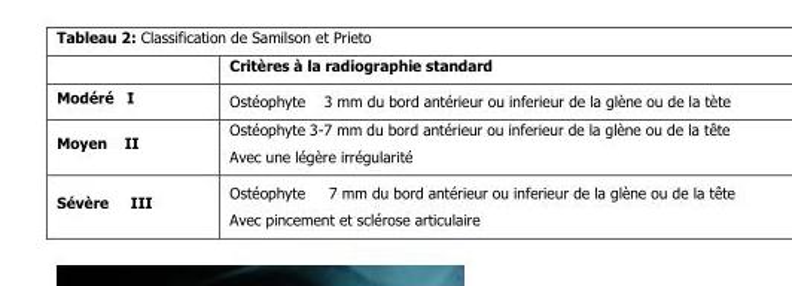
<table><thead><tr><td></td><td>Critères à la radiographie standard</td></tr></thead><tbody><tr><td>Modéré I</td><td>Ostéophyte 3 mm du bord antérieur ou inferieur de la glène ou de la tète</td></tr><tr><td>Moyen II</td><td>Ostéophyte 3-7 mm du bord antérieur ou inferieur de la glène ou de la tête Avec une légère irrégularité</td></tr><tr><td>Sévère III</td><td>Ostéophyte 7 mm du bord antérieur ou inferieur de la glène ou de la tête Avec pincement et sclérose articulaire</td></tr></tbody></table>